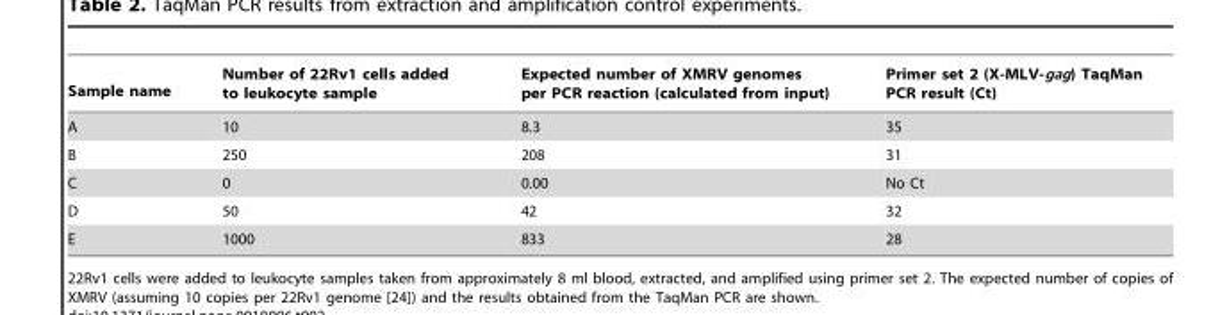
<table><thead><tr><td>Sample name</td><td>Number of 22Rv1 cells added to leukocyte sample</td><td>Expected number of XMRV genomes per PCR reaction (calculated from input)</td><td>Primer set 2 (X-MLV-gag) TaqMan PCR result (Ct)</td></tr></thead><tbody><tr><td>A</td><td>10</td><td>8.3</td><td>35</td></tr><tr><td>B</td><td>250</td><td>208</td><td>31</td></tr><tr><td>C</td><td>0</td><td>0.00</td><td>No Ct</td></tr><tr><td>D</td><td>50</td><td>42</td><td>32</td></tr><tr><td>E</td><td>1000</td><td>833</td><td>28</td></tr></tbody></table>